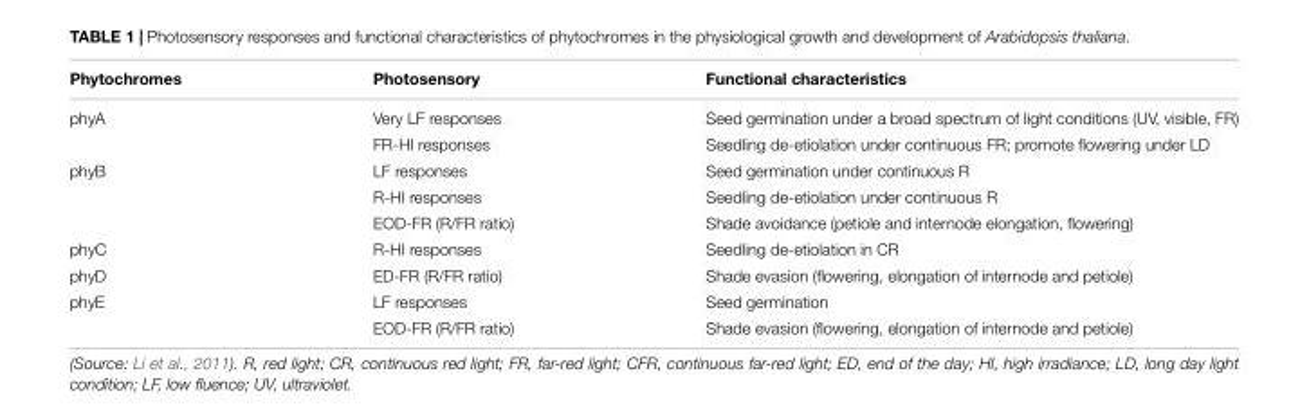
<table><thead><tr><td>Phytochromes</td><td>Photosensory</td><td>Functional characteristics</td></tr></thead><tbody><tr><td rowspan="2">phyA</td><td>Very LF responses</td><td>Seed germination under a broad spectrum of light conditions (UV, visible, FR)</td></tr><tr><td>FR-HI responses</td><td>Seedling de-etiolation under continuous FR; promote flowering under LD</td></tr><tr><td rowspan="3">phyB</td><td>LF responses</td><td>Seed germination under continuous R</td></tr><tr><td>R-HI responses</td><td>Seedling de-etiolation under continuous R</td></tr><tr><td>EOD-FR (R/FR ratio)</td><td>Shade avoidance (petiole and internode elongation, flowering)</td></tr><tr><td>phyC</td><td>R-HI responses</td><td>Seedling de-etiolation in CR</td></tr><tr><td>phyD</td><td>ED-FR (R/FR ratio)</td><td>Shade evasion (flowering, elongation of internode and petiole)</td></tr><tr><td rowspan="2">phyE</td><td>LF responses</td><td>Seed germination</td></tr><tr><td>EOD-FR (R/FR ratio)</td><td>Shade evasion (flowering, elongation of internode and petiole)</td></tr></tbody></table>